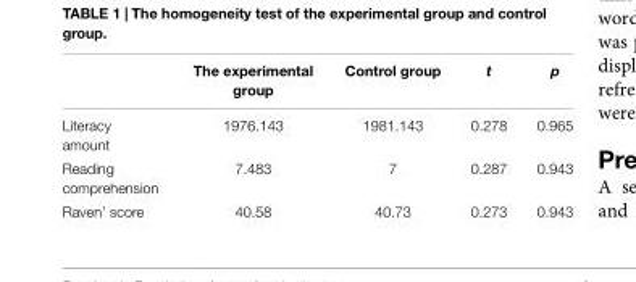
<table><thead><tr><td></td><td>The experimental group</td><td>Control group</td><td>t</td><td>p</td></tr></thead><tbody><tr><td>Literacy amount</td><td>1976.143</td><td>1981.143</td><td>0.278</td><td>0.965</td></tr><tr><td>Reading comprehension</td><td>7.483</td><td>7</td><td>0.287</td><td>0.943</td></tr><tr><td>Raven’ score</td><td>40.58</td><td>40.73</td><td>0.273</td><td>0.943</td></tr></tbody></table>